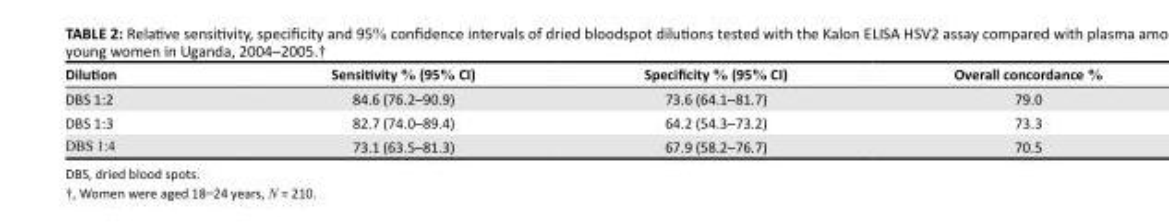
<table><thead><tr><td>Dilution</td><td>Sensitivity % (95% CI)</td><td>Specificity % (95% CI)</td><td>Overall concordance %</td></tr></thead><tbody><tr><td>DBS 1:2</td><td>84.6 (76.2–90.9)</td><td>73.6 (64.1–81.7)</td><td>79.0</td></tr><tr><td>DBS 1:3</td><td>82.7 (74.0–89.4)</td><td>64.2 (54.3–73.2)</td><td>73.3</td></tr><tr><td>DBS 1:4</td><td>73.1 (63.5–81.3)</td><td>67.9 (58.2–76.7)</td><td>70.5</td></tr></tbody></table>